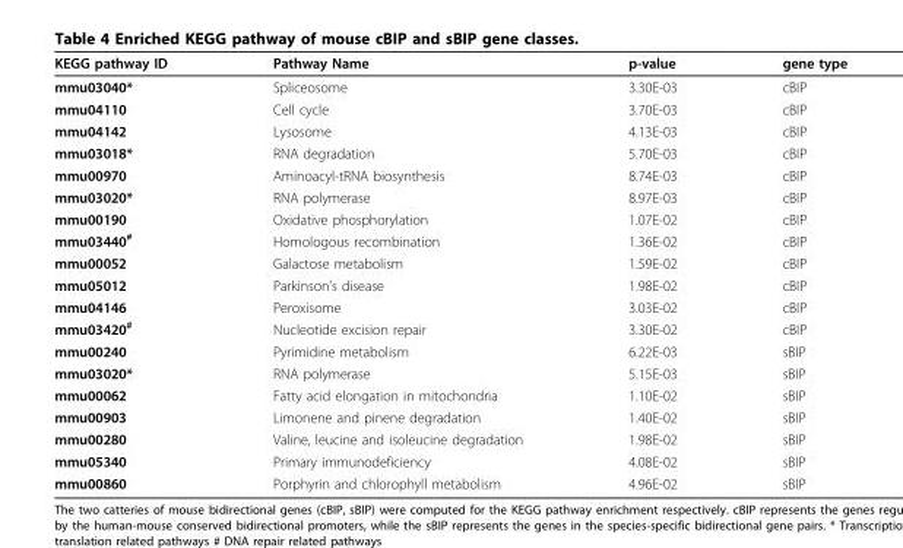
<table><thead><tr><td>KEGG pathway ID</td><td>Pathway Name</td><td>p-value</td><td>gene type</td></tr></thead><tbody><tr><td>mmu03040*</td><td>Spliceosome</td><td>3.30E-03</td><td>cBIP</td></tr><tr><td>mmu04110</td><td>Cell cycle</td><td>3.70E-03</td><td>cBIP</td></tr><tr><td>mmu04142</td><td>Lysosome</td><td>4.13E-03</td><td>cBIP</td></tr><tr><td>mmu03018*</td><td>RNA degradation</td><td>5.70E-03</td><td>cBIP</td></tr><tr><td>mmu00970</td><td>Aminoacyl-tRNA biosynthesis</td><td>8.74E-03</td><td>cBIP</td></tr><tr><td>mmu03020*</td><td>RNA polymerase</td><td>8.97E-03</td><td>cBIP</td></tr><tr><td>mmu00190</td><td>Oxidative phosphorylation</td><td>1.07E-02</td><td>cBIP</td></tr><tr><td>mmu03440<sup>#</sup></td><td>Homologous recombination</td><td>1.36E-02</td><td>cBIP</td></tr><tr><td>mmu00052</td><td>Galactose metabolism</td><td>1.59E-02</td><td>cBIP</td></tr><tr><td>mmu05012</td><td>Parkinson’s disease</td><td>1.98E-02</td><td>cBIP</td></tr><tr><td>mmu04146</td><td>Peroxisome</td><td>3.03E-02</td><td>cBIP</td></tr><tr><td>mmu03420<sup>#</sup></td><td>Nucleotide excision repair</td><td>3.30E-02</td><td>cBIP</td></tr><tr><td>mmu00240</td><td>Pyrimidine metabolism</td><td>6.22E-03</td><td>sBIP</td></tr><tr><td>mmu03020*</td><td>RNA polymerase</td><td>5.15E-03</td><td>sBIP</td></tr><tr><td>mmu00062</td><td>Fatty acid elongation in mitochondria</td><td>1.10E-02</td><td>sBIP</td></tr><tr><td>mmu00903</td><td>Limonene and pinene degradation</td><td>1.40E-02</td><td>sBIP</td></tr><tr><td>mmu00280</td><td>Valine, leucine and isoleucine degradation</td><td>1.98E-02</td><td>sBIP</td></tr><tr><td>mmu05340</td><td>Primary immunodeficiency</td><td>4.08E-02</td><td>sBIP</td></tr><tr><td>mmu00860</td><td>Porphyrin and chlorophyll metabolism</td><td>4.96E-02</td><td>sBIP</td></tr></tbody></table>